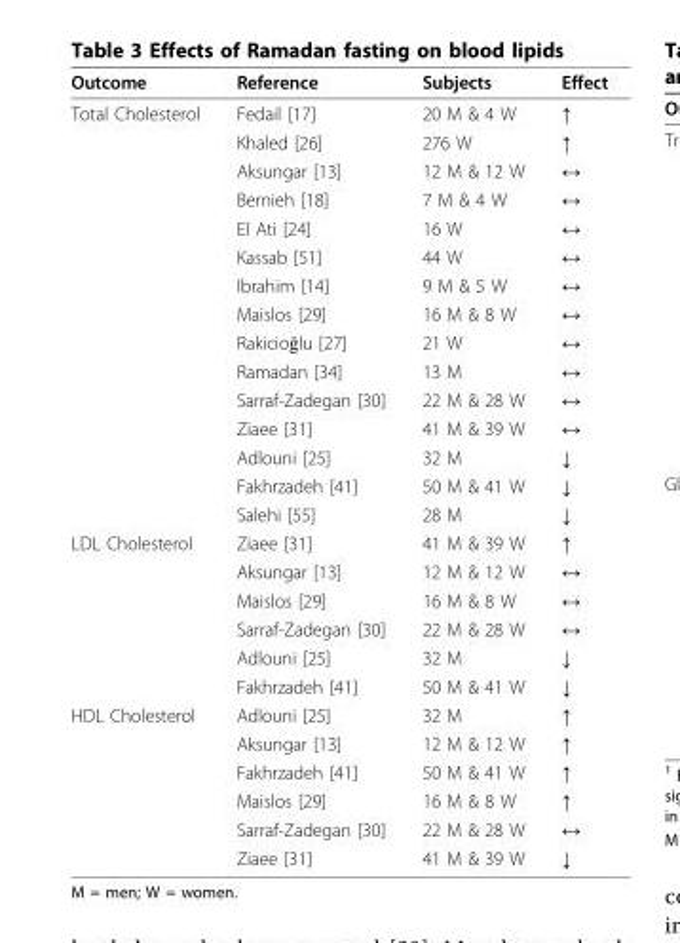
<table><thead><tr><td>Outcome</td><td>Reference</td><td>Subjects</td><td>Effect</td></tr></thead><tbody><tr><td rowspan="15">Total Cholesterol</td><td>Fedail [17]</td><td>20 M &amp; 4 W</td><td>↑</td></tr><tr><td>Khaled [26]</td><td>276 W</td><td>↑</td></tr><tr><td>Aksungar [13]</td><td>12 M &amp; 12 W</td><td>↔</td></tr><tr><td>Bernieh [18]</td><td>7 M &amp; 4 W</td><td>↔</td></tr><tr><td>El Ati [24]</td><td>16 W</td><td>↔</td></tr><tr><td>Kassab [51]</td><td>44 W</td><td>↔</td></tr><tr><td>Ibrahim [14]</td><td>9 M &amp; 5 W</td><td>↔</td></tr><tr><td>Maislos [29]</td><td>16 M &amp; 8 W</td><td>↔</td></tr><tr><td>Rakicioğlu [27]</td><td>21 W</td><td>↔</td></tr><tr><td>Ramadan [34]</td><td>13 M</td><td>↔</td></tr><tr><td>Sarraf-Zadegan [30]</td><td>22 M &amp; 28 W</td><td>↔</td></tr><tr><td>Ziaee [31]</td><td>41 M &amp; 39 W</td><td>↔</td></tr><tr><td>Adlouni [25]</td><td>32 M</td><td>↓</td></tr><tr><td>Fakhrzadeh [41]</td><td>50 M &amp; 41 W</td><td>↓</td></tr><tr><td>Salehi [55]</td><td>28 M</td><td>↓</td></tr><tr><td rowspan="6">LDL Cholesterol</td><td>Ziaee [31]</td><td>41 M &amp; 39 W</td><td>↑</td></tr><tr><td>Aksungar [13]</td><td>12 M &amp; 12 W</td><td>↔</td></tr><tr><td>Maislos [29]</td><td>16 M &amp; 8 W</td><td>↔</td></tr><tr><td>Sarraf-Zadegan [30]</td><td>22 M &amp; 28 W</td><td>↔</td></tr><tr><td>Adlouni [25]</td><td>32 M</td><td>↓</td></tr><tr><td>Fakhrzadeh [41]</td><td>50 M &amp; 41 W</td><td>↓</td></tr><tr><td rowspan="6">HDL Cholesterol</td><td>Adlouni [25]</td><td>32 M</td><td>↑</td></tr><tr><td>Aksungar [13]</td><td>12 M &amp; 12 W</td><td>↑</td></tr><tr><td>Fakhrzadeh [41]</td><td>50 M &amp; 41 W</td><td>↑</td></tr><tr><td>Maislos [29]</td><td>16 M &amp; 8 W</td><td>↑</td></tr><tr><td>Sarraf-Zadegan [30]</td><td>22 M &amp; 28 W</td><td>↔</td></tr><tr><td>Ziaee [31]</td><td>41 M &amp; 39 W</td><td>↓</td></tr></tbody></table>